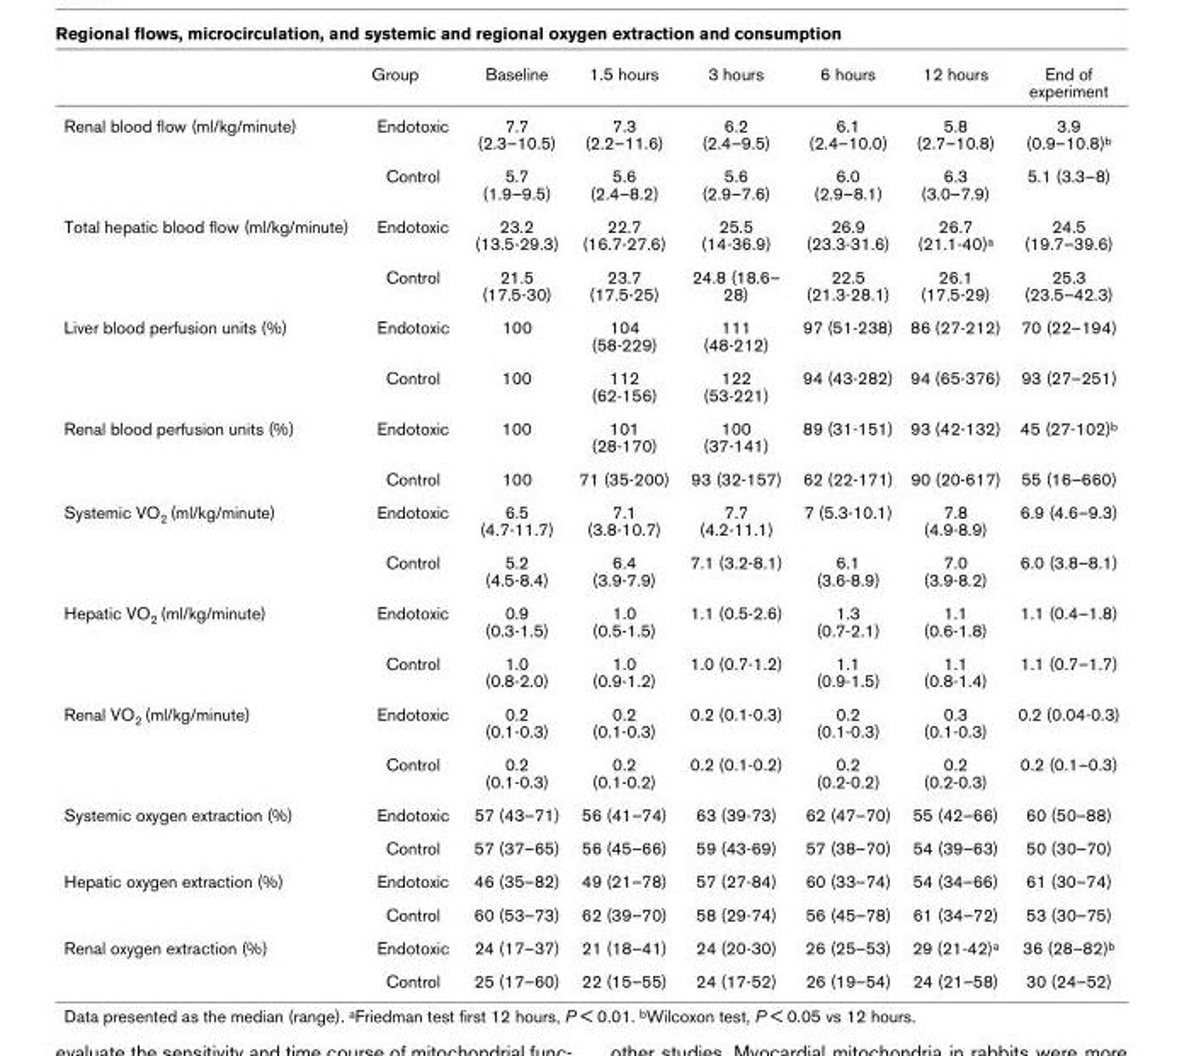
<table><thead><tr><td></td><td>Group</td><td>Baseline</td><td>1.5 hours</td><td>3 hours</td><td>6 hours</td><td>12 hours</td><td>End of experiment</td></tr></thead><tbody><tr><td rowspan="2">Renal blood flow (ml/kg/minute)</td><td>Endotoxic</td><td>7.7 (2.3–10.5)</td><td>7.3 (2.2–11.6)</td><td>6.2 (2.4–9.5)</td><td>6.1 (2.4–10.0)</td><td>5.8 (2.7–10.8)</td><td>3.9 (0.9–10.8)b</td></tr><tr><td>Control</td><td>5.7 (1.9–9.5)</td><td>5.6 (2.4–8.2)</td><td>5.6 (2.9–7.6)</td><td>6.0 (2.9–8.1)</td><td>6.3 (3.0–7.9)</td><td>5.1 (3.3–8)</td></tr><tr><td rowspan="2">Total hepatic blood flow (ml/kg/minute)</td><td>Endotoxic</td><td>23.2 (13.5-29.3)</td><td>22.7 (16.7-27.6)</td><td>25.5 (14-36.9)</td><td>26.9 (23.3-31.6)</td><td>26.7 (21.1-40)a</td><td>24.5 (19.7–39.6)</td></tr><tr><td>Control</td><td>21.5 (17.5-30)</td><td>23.7 (17.5-25)</td><td>24.8 (18.6– 28)</td><td>22.5 (21.3-28.1)</td><td>26.1 (17.5-29)</td><td>25.3 (23.5–42.3)</td></tr><tr><td rowspan="2">Liver blood perfusion units (%)</td><td>Endotoxic</td><td>100</td><td>104 (58-229)</td><td>111 (48-212)</td><td>97 (51-238)</td><td>86 (27-212)</td><td>70 (22–194)</td></tr><tr><td>Control</td><td>100</td><td>112 (62-156)</td><td>122 (53-221)</td><td>94 (43-282)</td><td>94 (65-376)</td><td>93 (27–251)</td></tr><tr><td rowspan="2">Renal blood perfusion units (%)</td><td>Endotoxic</td><td>100</td><td>101 (28-170)</td><td>100 (37-141)</td><td>89 (31-151)</td><td>93 (42-132)</td><td>45 (27-102)b</td></tr><tr><td>Control</td><td>100</td><td>71 (35-200)</td><td>93 (32-157)</td><td>62 (22-171)</td><td>90 (20-617)</td><td>55 (16–660)</td></tr><tr><td rowspan="2">Systemic VO2 (ml/kg/minute)</td><td>Endotoxic</td><td>6.5 (4.7-11.7)</td><td>7.1 (3.8-10.7)</td><td>7.7 (4.2-11.1)</td><td>7 (5.3-10.1)</td><td>7.8 (4.9-8.9)</td><td>6.9 (4.6–9.3)</td></tr><tr><td>Control</td><td>5.2 (4.5-8.4)</td><td>6.4 (3.9-7.9)</td><td>7.1 (3.2-8.1)</td><td>6.1 (3.6-8.9)</td><td>7.0 (3.9-8.2)</td><td>6.0 (3.8–8.1)</td></tr><tr><td rowspan="2">Hepatic VO2 (ml/kg/minute)</td><td>Endotoxic</td><td>0.9 (0.3-1.5)</td><td>1.0 (0.5-1.5)</td><td>1.1 (0.5-2.6)</td><td>1.3 (0.7-2.1)</td><td>1.1 (0.6-1.8)</td><td>1.1 (0.4–1.8)</td></tr><tr><td>Control</td><td>1.0 (0.8-2.0)</td><td>1.0 (0.9-1.2)</td><td>1.0 (0.7-1.2)</td><td>1.1 (0.9-1.5)</td><td>1.1 (0.8-1.4)</td><td>1.1 (0.7–1.7)</td></tr><tr><td rowspan="2">Renal VO2 (ml/kg/minute)</td><td>Endotoxic</td><td>0.2 (0.1-0.3)</td><td>0.2 (0.1-0.3)</td><td>0.2 (0.1-0.3)</td><td>0.2 (0.1-0.3)</td><td>0.3 (0.1-0.3)</td><td>0.2 (0.04-0.3)</td></tr><tr><td>Control</td><td>0.2 (0.1-0.3)</td><td>0.2 (0.1-0.2)</td><td>0.2 (0.1-0.2)</td><td>0.2 (0.2-0.2)</td><td>0.2 (0.2-0.3)</td><td>0.2 (0.1–0.3)</td></tr><tr><td rowspan="2">Systemic oxygen extraction (%)</td><td>Endotoxic</td><td>57 (43–71)</td><td>56 (41–74)</td><td>63 (39-73)</td><td>62 (47–70)</td><td>55 (42–66)</td><td>60 (50–88)</td></tr><tr><td>Control</td><td>57 (37–65)</td><td>56 (45–66)</td><td>59 (43-69)</td><td>57 (38–70)</td><td>54 (39–63)</td><td>50 (30–70)</td></tr><tr><td rowspan="2">Hepatic oxygen extraction (%)</td><td>Endotoxic</td><td>46 (35–82)</td><td>49 (21–78)</td><td>57 (27-84)</td><td>60 (33–74)</td><td>54 (34–66)</td><td>61 (30–74)</td></tr><tr><td>Control</td><td>60 (53–73)</td><td>62 (39–70)</td><td>58 (29-74)</td><td>56 (45–78)</td><td>61 (34–72)</td><td>53 (30–75)</td></tr><tr><td rowspan="2">Renal oxygen extraction (%)</td><td>Endotoxic</td><td>24 (17–37)</td><td>21 (18–41)</td><td>24 (20-30)</td><td>26 (25–53)</td><td>29 (21-42)a</td><td>36 (28–82)b</td></tr><tr><td>Control</td><td>25 (17–60)</td><td>22 (15–55)</td><td>24 (17-52)</td><td>26 (19–54)</td><td>24 (21–58)</td><td>30 (24–52)</td></tr></tbody></table>